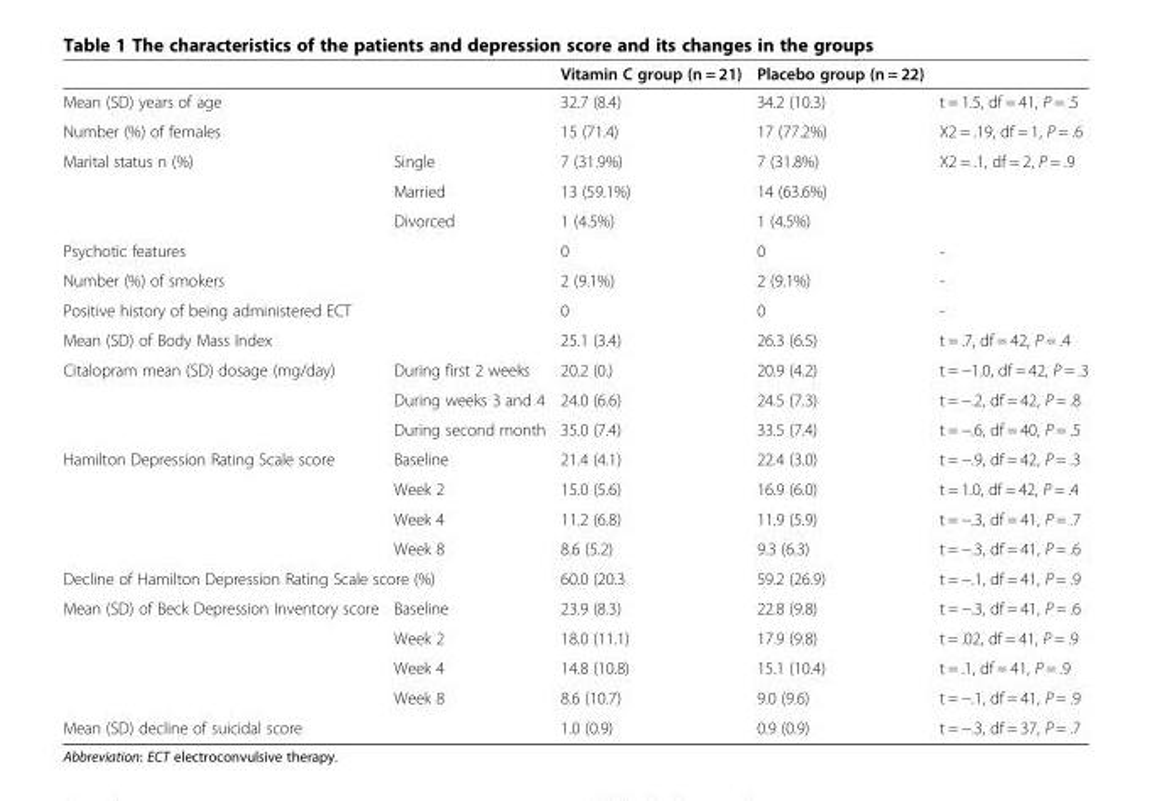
<table><thead><tr><td></td><td></td><td>Vitamin C group (n = 21)</td><td>Placebo group (n = 22)</td><td></td></tr></thead><tbody><tr><td colspan="2">Mean (SD) years of age</td><td>32.7 (8.4)</td><td>34.2 (10.3)</td><td>t = 1.5, df = 41, P = .5</td></tr><tr><td colspan="2">Number (%) of females</td><td>15 (71.4)</td><td>17 (77.2%)</td><td>X2 = .19, df = 1, P = .6</td></tr><tr><td rowspan="3">Marital status n (%)</td><td>Single</td><td>7 (31.9%)</td><td>7 (31.8%)</td><td rowspan="3">X2 = .1, df = 2, P = .9</td></tr><tr><td>Married</td><td>13 (59.1%)</td><td>14 (63.6%)</td></tr><tr><td>Divorced</td><td>1 (4.5%)</td><td>1 (4.5%)</td></tr><tr><td colspan="2">Psychotic features</td><td>0</td><td>0</td><td>-</td></tr><tr><td colspan="2">Number (%) of smokers</td><td>2 (9.1%)</td><td>2 (9.1%)</td><td>-</td></tr><tr><td colspan="2">Positive history of being administered ECT</td><td>0</td><td>0</td><td>-</td></tr><tr><td colspan="2">Mean (SD) of Body Mass Index</td><td>25.1 (3.4)</td><td>26.3 (6.5)</td><td>t = .7, df = 42, P = .4</td></tr><tr><td rowspan="3">Citalopram mean (SD) dosage (mg/day)</td><td>During first 2 weeks</td><td>20.2 (0.)</td><td>20.9 (4.2)</td><td>t = −1.0, df = 42, P = .3</td></tr><tr><td>During weeks 3 and 4</td><td>24.0 (6.6)</td><td>24.5 (7.3)</td><td>t = −.2, df = 42, P = .8</td></tr><tr><td>During second month</td><td>35.0 (7.4)</td><td>33.5 (7.4)</td><td>t = −.6, df = 40, P = .5</td></tr><tr><td rowspan="4">Hamilton Depression Rating Scale score</td><td>Baseline</td><td>21.4 (4.1)</td><td>22.4 (3.0)</td><td>t = −.9, df = 42, P = .3</td></tr><tr><td>Week 2</td><td>15.0 (5.6)</td><td>16.9 (6.0)</td><td>t = 1.0, df = 42, P = .4</td></tr><tr><td>Week 4</td><td>11.2 (6.8)</td><td>11.9 (5.9)</td><td>t = −.3, df = 41, P = .7</td></tr><tr><td>Week 8</td><td>8.6 (5.2)</td><td>9.3 (6.3)</td><td>t = −.3, df = 41, P = .6</td></tr><tr><td colspan="2">Decline of Hamilton Depression Rating Scale score (%)</td><td>60.0 (20.3</td><td>59.2 (26.9)</td><td>t = −.1, df = 41, P = .9</td></tr><tr><td rowspan="4">Mean (SD) of Beck Depression Inventory score</td><td>Baseline</td><td>23.9 (8.3)</td><td>22.8 (9.8)</td><td>t = −.3, df = 41, P = .6</td></tr><tr><td>Week 2</td><td>18.0 (11.1)</td><td>17.9 (9.8)</td><td>t = .02, df = 41, P = .9</td></tr><tr><td>Week 4</td><td>14.8 (10.8)</td><td>15.1 (10.4)</td><td>t = .1, df = 41, P = .9</td></tr><tr><td>Week 8</td><td>8.6 (10.7)</td><td>9.0 (9.6)</td><td>t = −.1, df = 41, P = .9</td></tr><tr><td colspan="2">Mean (SD) decline of suicidal score</td><td>1.0 (0.9)</td><td>0.9 (0.9)</td><td>t = −.3, df = 37, P = .7</td></tr></tbody></table>